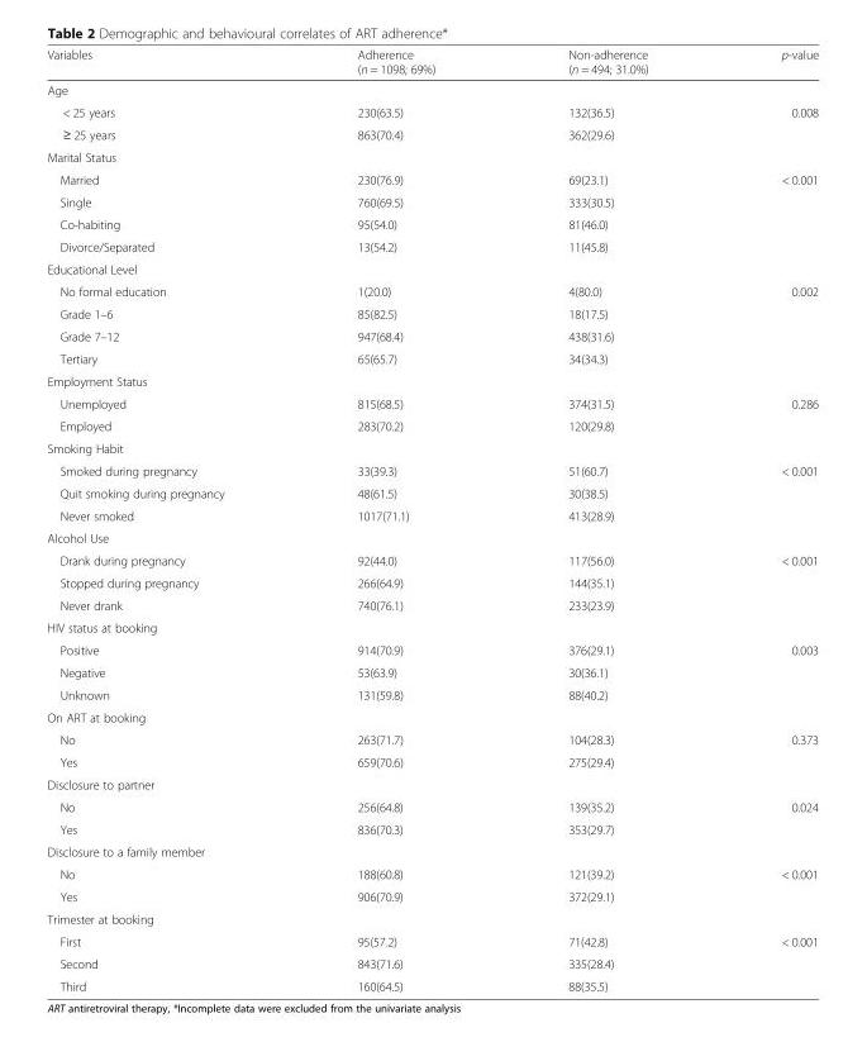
<table><thead><tr><td>Variables</td><td>Adherence (n = 1098; 69%)</td><td>Non-adherence (n = 494; 31.0%)</td><td>p-value</td></tr></thead><tbody><tr><td colspan="4">Age</td></tr><tr><td>&lt; 25 years</td><td>230(63.5)</td><td>132(36.5)</td><td>0.008</td></tr><tr><td>≥ 25 years</td><td>863(70.4)</td><td>362(29.6)</td><td></td></tr><tr><td colspan="4">Marital Status</td></tr><tr><td>Married</td><td>230(76.9)</td><td>69(23.1)</td><td>&lt; 0.001</td></tr><tr><td>Single</td><td>760(69.5)</td><td>333(30.5)</td><td></td></tr><tr><td>Co-habiting</td><td>95(54.0)</td><td>81(46.0)</td><td></td></tr><tr><td>Divorce/Separated</td><td>13(54.2)</td><td>11(45.8)</td><td></td></tr><tr><td colspan="4">Educational Level</td></tr><tr><td>No formal education</td><td>1(20.0)</td><td>4(80.0)</td><td>0.002</td></tr><tr><td>Grade 1–6</td><td>85(82.5)</td><td>18(17.5)</td><td></td></tr><tr><td>Grade 7–12</td><td>947(68.4)</td><td>438(31.6)</td><td></td></tr><tr><td>Tertiary</td><td>65(65.7)</td><td>34(34.3)</td><td></td></tr><tr><td colspan="4">Employment Status</td></tr><tr><td>Unemployed</td><td>815(68.5)</td><td>374(31.5)</td><td>0.286</td></tr><tr><td>Employed</td><td>283(70.2)</td><td>120(29.8)</td><td></td></tr><tr><td colspan="4">Smoking Habit</td></tr><tr><td>Smoked during pregnancy</td><td>33(39.3)</td><td>51(60.7)</td><td>&lt; 0.001</td></tr><tr><td>Quit smoking during pregnancy</td><td>48(61.5)</td><td>30(38.5)</td><td></td></tr><tr><td>Never smoked</td><td>1017(71.1)</td><td>413(28.9)</td><td></td></tr><tr><td colspan="4">Alcohol Use</td></tr><tr><td>Drank during pregnancy</td><td>92(44.0)</td><td>117(56.0)</td><td>&lt; 0.001</td></tr><tr><td>Stopped during pregnancy</td><td>266(64.9)</td><td>144(35.1)</td><td></td></tr><tr><td>Never drank</td><td>740(76.1)</td><td>233(23.9)</td><td></td></tr><tr><td colspan="4">HIV status at booking</td></tr><tr><td>Positive</td><td>914(70.9)</td><td>376(29.1)</td><td>0.003</td></tr><tr><td>Negative</td><td>53(63.9)</td><td>30(36.1)</td><td></td></tr><tr><td>Unknown</td><td>131(59.8)</td><td>88(40.2)</td><td></td></tr><tr><td colspan="4">On ART at booking</td></tr><tr><td>No</td><td>263(71.7)</td><td>104(28.3)</td><td>0.373</td></tr><tr><td>Yes</td><td>659(70.6)</td><td>275(29.4)</td><td></td></tr><tr><td colspan="4">Disclosure to partner</td></tr><tr><td>No</td><td>256(64.8)</td><td>139(35.2)</td><td>0.024</td></tr><tr><td>Yes</td><td>836(70.3)</td><td>353(29.7)</td><td></td></tr><tr><td colspan="4">Disclosure to a family member</td></tr><tr><td>No</td><td>188(60.8)</td><td>121(39.2)</td><td>&lt; 0.001</td></tr><tr><td>Yes</td><td>906(70.9)</td><td>372(29.1)</td><td></td></tr><tr><td colspan="4">Trimester at booking</td></tr><tr><td>First</td><td>95(57.2)</td><td>71(42.8)</td><td>&lt; 0.001</td></tr><tr><td>Second</td><td>843(71.6)</td><td>335(28.4)</td><td></td></tr><tr><td>Third</td><td>160(64.5)</td><td>88(35.5)</td><td></td></tr></tbody></table>